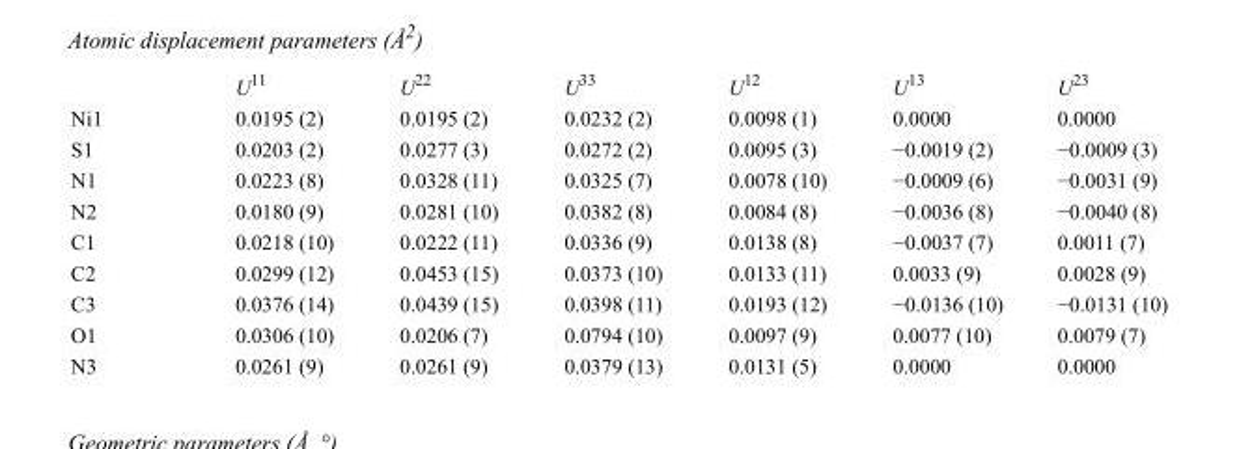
<table><thead><tr><td></td><td>U<sup>11</sup></td><td>U<sup>22</sup></td><td>U<sup>33</sup></td><td>U<sup>12</sup></td><td>U<sup>13</sup></td><td>U<sup>23</sup></td></tr></thead><tbody><tr><td>Ni1</td><td>0.0195 (2)</td><td>0.0195 (2)</td><td>0.0232 (2)</td><td>0.0098 (1)</td><td>0.0000</td><td>0.0000</td></tr><tr><td>S1</td><td>0.0203 (2)</td><td>0.0277 (3)</td><td>0.0272 (2)</td><td>0.0095 (3)</td><td>−0.0019 (2)</td><td>−0.0009 (3)</td></tr><tr><td>N1</td><td>0.0223 (8)</td><td>0.0328 (11)</td><td>0.0325 (7)</td><td>0.0078 (10)</td><td>−0.0009 (6)</td><td>−0.0031 (9)</td></tr><tr><td>N2</td><td>0.0180 (9)</td><td>0.0281 (10)</td><td>0.0382 (8)</td><td>0.0084 (8)</td><td>−0.0036 (8)</td><td>−0.0040 (8)</td></tr><tr><td>C1</td><td>0.0218 (10)</td><td>0.0222 (11)</td><td>0.0336 (9)</td><td>0.0138 (8)</td><td>−0.0037 (7)</td><td>0.0011 (7)</td></tr><tr><td>C2</td><td>0.0299 (12)</td><td>0.0453 (15)</td><td>0.0373 (10)</td><td>0.0133 (11)</td><td>0.0033 (9)</td><td>0.0028 (9)</td></tr><tr><td>C3</td><td>0.0376 (14)</td><td>0.0439 (15)</td><td>0.0398 (11)</td><td>0.0193 (12)</td><td>−0.0136 (10)</td><td>−0.0131 (10)</td></tr><tr><td>O1</td><td>0.0306 (10)</td><td>0.0206 (7)</td><td>0.0794 (10)</td><td>0.0097 (9)</td><td>0.0077 (10)</td><td>0.0079 (7)</td></tr><tr><td>N3</td><td>0.0261 (9)</td><td>0.0261 (9)</td><td>0.0379 (13)</td><td>0.0131 (5)</td><td>0.0000</td><td>0.0000</td></tr></tbody></table>